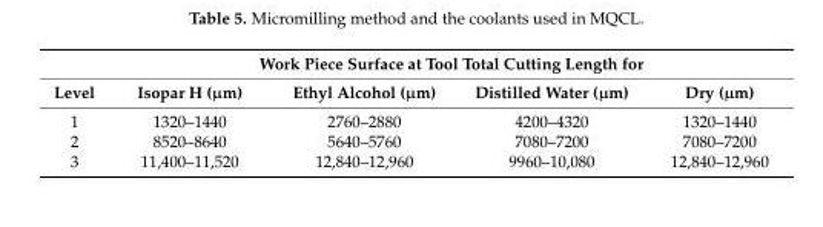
<table><thead><tr><td rowspan="2">Level</td><td colspan="4">Work Piece Surface at Tool Total Cutting Length for</td></tr><tr><td>Isopar H (µm)</td><td>Ethyl Alcohol (µm)</td><td>Distilled Water (µm)</td><td>Dry (µm)</td></tr></thead><tbody><tr><td>1</td><td>1320–1440</td><td>2760–2880</td><td>4200–4320</td><td>1320–1440</td></tr><tr><td>2</td><td>8520–8640</td><td>5640–5760</td><td>7080–7200</td><td>7080–7200</td></tr><tr><td>3</td><td>11,400–11,520</td><td>12,840–12,960</td><td>9960–10,080</td><td>12,840–12,960</td></tr></tbody></table>